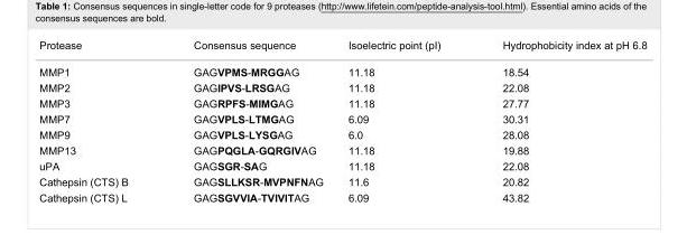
<table><tbody><tr><td>Protease</td><td>Consensus sequence</td><td>Isoelectric point (pI)</td><td>Hydrophobicity index at pH 6.8</td></tr><tr><td>MMP1</td><td>GAGVPMS-MRGGAG</td><td>11.18</td><td>18.54</td></tr><tr><td>MMP2</td><td>GAGIPVS-LRSGAG</td><td>11.18</td><td>22.08</td></tr><tr><td>MMP3</td><td>GAGRPFS-MIMGAG</td><td>11.18</td><td>27.77</td></tr><tr><td>MMP7</td><td>GAGVPLS-LTMGAG</td><td>6.09</td><td>30.31</td></tr><tr><td>MMP9</td><td>GAGVPLS-LYSGAG</td><td>6.0</td><td>28.08</td></tr><tr><td>MMP13</td><td>GAGPQGLA-GQRGIVAG</td><td>11.18</td><td>19.88</td></tr><tr><td>uPA</td><td>GAGSGR-SAG</td><td>11.18</td><td>22.08</td></tr><tr><td>Cathepsin (CTS) B</td><td>GAGSLLKSR-MVPNFNAG</td><td>11.6</td><td>20.82</td></tr><tr><td>Cathepsin (CTS) L</td><td>GAGSGVVIA-TVIVITAG</td><td>6.09</td><td>43.82</td></tr></tbody></table>